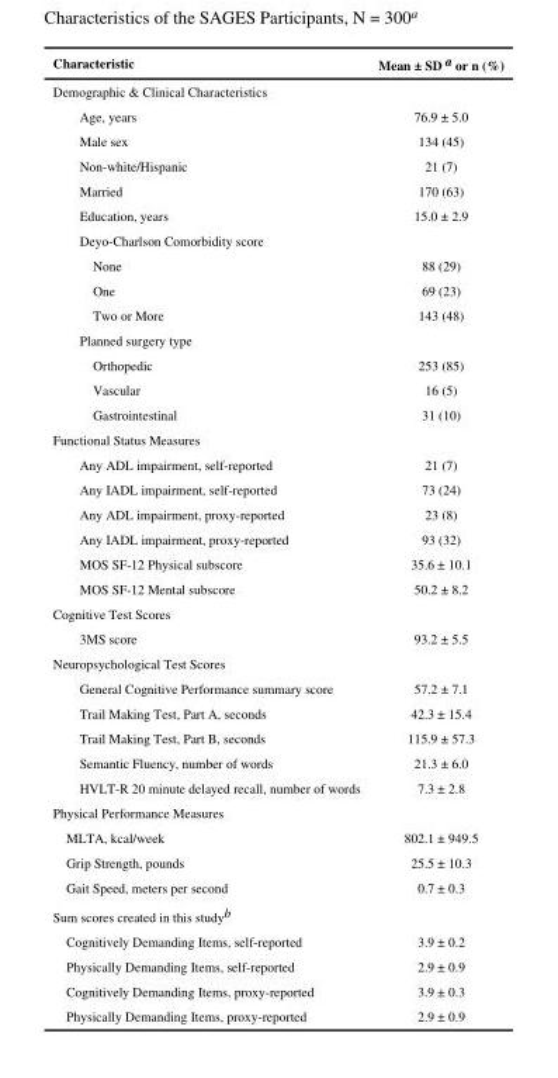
<table><thead><tr><td>Characteristic</td><td>Mean ± SD a or n (%)</td></tr></thead><tbody><tr><td colspan="2">Demographic &amp; Clinical Characteristics</td></tr><tr><td>Age, years</td><td>76.9 ± 5.0</td></tr><tr><td>Male sex</td><td>134 (45)</td></tr><tr><td>Non-white/Hispanic</td><td>21 (7)</td></tr><tr><td>Married</td><td>170 (63)</td></tr><tr><td>Education, years</td><td>15.0 ± 2.9</td></tr><tr><td colspan="2">Deyo-Charlson Comorbidity score</td></tr><tr><td>None</td><td>88 (29)</td></tr><tr><td>One</td><td>69 (23)</td></tr><tr><td>Two or More</td><td>143 (48)</td></tr><tr><td colspan="2">Planned surgery type</td></tr><tr><td>Orthopedic</td><td>253 (85)</td></tr><tr><td>Vascular</td><td>16 (5)</td></tr><tr><td>Gastrointestinal</td><td>31 (10)</td></tr><tr><td colspan="2">Functional Status Measures</td></tr><tr><td>Any ADL impairment, self-reported</td><td>21 (7)</td></tr><tr><td>Any IADL impairment, self-reported</td><td>73 (24)</td></tr><tr><td>Any ADL impairment, proxy-reported</td><td>23 (8)</td></tr><tr><td>Any IADL impairment, proxy-reported</td><td>93 (32)</td></tr><tr><td>MOS SF-12 Physical subscore</td><td>35.6 ± 10.1</td></tr><tr><td>MOS SF-12 Mental subscore</td><td>50.2 ± 8.2</td></tr><tr><td colspan="2">Cognitive Test Scores</td></tr><tr><td>3MS score</td><td>93.2 ± 5.5</td></tr><tr><td colspan="2">Neuropsychological Test Scores</td></tr><tr><td>General Cognitive Performance summary score</td><td>57.2 ± 7.1</td></tr><tr><td>Trail Making Test, Part A, seconds</td><td>42.3 ± 15.4</td></tr><tr><td>Trail Making Test, Part B, seconds</td><td>115.9 ± 57.3</td></tr><tr><td>Semantic Fluency, number of words</td><td>21.3 ± 6.0</td></tr><tr><td>HVLT-R 20 minute delayed recall, number of words</td><td>7.3 ± 2.8</td></tr><tr><td colspan="2">Physical Performance Measures</td></tr><tr><td>MLTA, kcal/week</td><td>802.1 ± 949.5</td></tr><tr><td>Grip Strength, pounds</td><td>25.5 ± 10.3</td></tr><tr><td>Gait Speed, meters per second</td><td>0.7 ± 0.3</td></tr><tr><td colspan="2">Sum scores created in this study<sup>b</sup></td></tr><tr><td>Cognitively Demanding Items, self-reported</td><td>3.9 ± 0.2</td></tr><tr><td>Physically Demanding Items, self-reported</td><td>2.9 ± 0.9</td></tr><tr><td>Cognitively Demanding Items, proxy-reported</td><td>3.9 ± 0.3</td></tr><tr><td>Physically Demanding Items, proxy-reported</td><td>2.9 ± 0.9</td></tr></tbody></table>